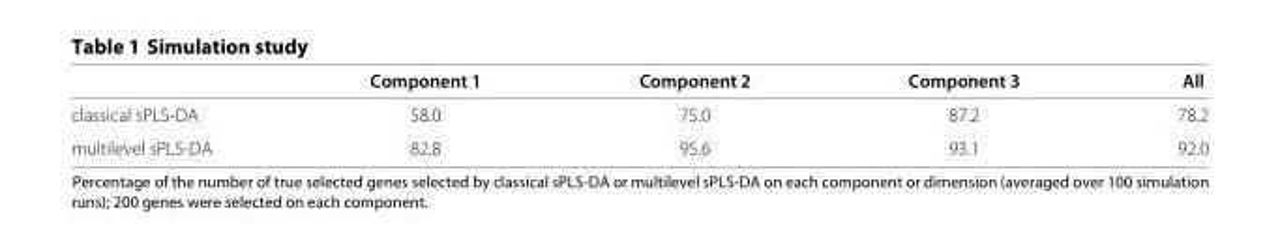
<table><thead><tr><td></td><td>Component 1</td><td>Component 2</td><td>Component 3</td><td>All</td></tr></thead><tbody><tr><td>classical sPLS-DA</td><td>58.0</td><td>75.0</td><td>87.2</td><td>78.2</td></tr><tr><td>multilevel sPLS-DA</td><td>82.8</td><td>95.6</td><td>93.1</td><td>92.0</td></tr></tbody></table>